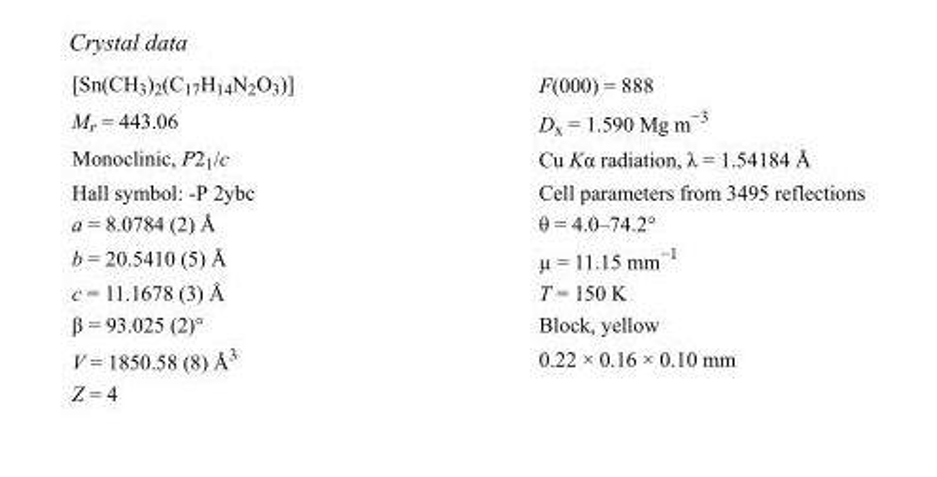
<table><tbody><tr><td>[Sn(CH<sub>3</sub>)<sub>2</sub>(C<sub>17</sub>H<sub>14</sub>N<sub>2</sub>O<sub>3</sub>)]</td><td>F(000) = 888</td></tr><tr><td>M<sub>r</sub> = 443.06</td><td>D<sub>x</sub> = 1.590 Mg m<sup>−3</sup></td></tr><tr><td>Monoclinic, P2<sub>1</sub>/c</td><td>Cu Kα radiation, λ = 1.54184 Å</td></tr><tr><td>Hall symbol: -P 2ybc</td><td>Cell parameters from 3495 reflections</td></tr><tr><td>a = 8.0784 (2) Å</td><td>θ = 4.0–74.2°</td></tr><tr><td>b = 20.5410 (5) Å</td><td>µ = 11.15 mm<sup>−1</sup></td></tr><tr><td>c = 11.1678 (3) Å</td><td>T = 150 K</td></tr><tr><td>β = 93.025 (2)°</td><td>Block, yellow</td></tr><tr><td>V = 1850.58 (8) Å<sup>3</sup></td><td>0.22 × 0.16 × 0.10 mm</td></tr><tr><td>Z = 4</td><td></td></tr></tbody></table>